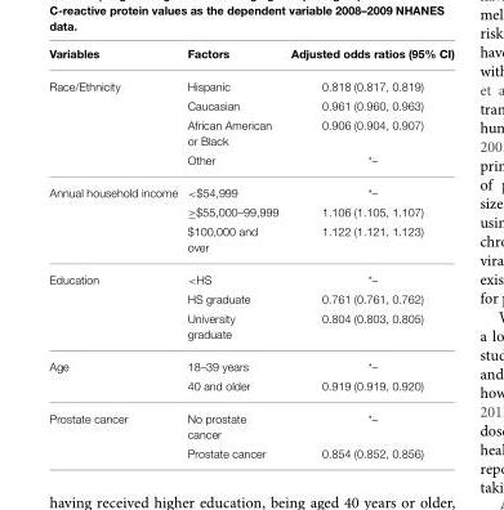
<table><thead><tr><td>Variables</td><td>Factors</td><td>Adjusted odds ratios (95% CI)</td></tr></thead><tbody><tr><td rowspan="4">Race/Ethnicity</td><td>Hispanic</td><td>0.818 (0.817, 0.819)</td></tr><tr><td>Caucasian</td><td>0.961 (0.960, 0.963)</td></tr><tr><td>African American or Black</td><td>0.906 (0.904, 0.907)</td></tr><tr><td>Other</td><td>*–</td></tr><tr><td rowspan="3">Annual household income</td><td>&lt;$54,999</td><td>*–</td></tr><tr><td>≥$55,000–99,999</td><td>1.106 (1.105, 1.107)</td></tr><tr><td>$100,000 and over</td><td>1.122 (1.121, 1.123)</td></tr><tr><td rowspan="3">Education</td><td>&lt;HS</td><td>*–</td></tr><tr><td>HS graduate</td><td>0.761 (0.761, 0.762)</td></tr><tr><td>University graduate</td><td>0.804 (0.803, 0.805)</td></tr><tr><td rowspan="2">Age</td><td>18–39 years</td><td>*–</td></tr><tr><td>40 and older</td><td>0.919 (0.919, 0.920)</td></tr><tr><td rowspan="2">Prostate cancer</td><td>No prostate cancer</td><td>*–</td></tr><tr><td>Prostate cancer</td><td>0.854 (0.852, 0.856)</td></tr></tbody></table>